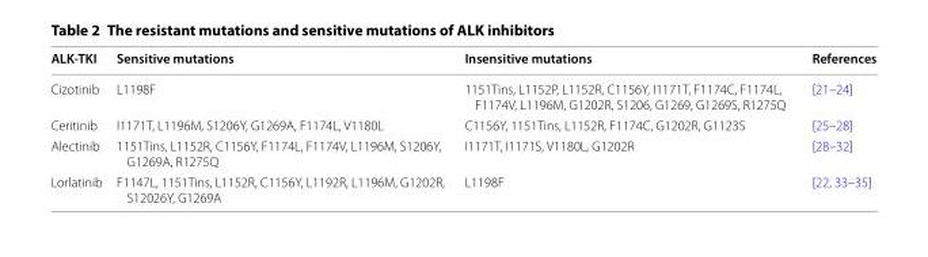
<table><thead><tr><td>ALK-TKI</td><td>Sensitive mutations</td><td>Insensitive mutations</td><td>References</td></tr></thead><tbody><tr><td>Cizotinib</td><td>L1198F</td><td>1151Tins, L1152P, L1152R, C1156Y, I1171T, F1174C, F1174L, F1174V, L1196M, G1202R, S1206, G1269, G1269S, R1275Q</td><td>[21–24]</td></tr><tr><td>Ceritinib</td><td>I1171T, L1196M, S1206Y, G1269A, F1174L, V1180L</td><td>C1156Y, 1151Tins, L1152R, F1174C, G1202R, G1123S</td><td>[25–28]</td></tr><tr><td>Alectinib</td><td>1151Tins, L1152R, C1156Y, F1174L, F1174V, L1196M, S1206Y, G1269A, R1275Q</td><td>I1171T, I1171S, V1180L, G1202R</td><td>[28–32]</td></tr><tr><td>Lorlatinib</td><td>F1147L, 1151Tins, L1152R, C1156Y, L1192R, L1196M, G1202R, S12026Y, G1269A</td><td>L1198F</td><td>[22, 33–35]</td></tr></tbody></table>